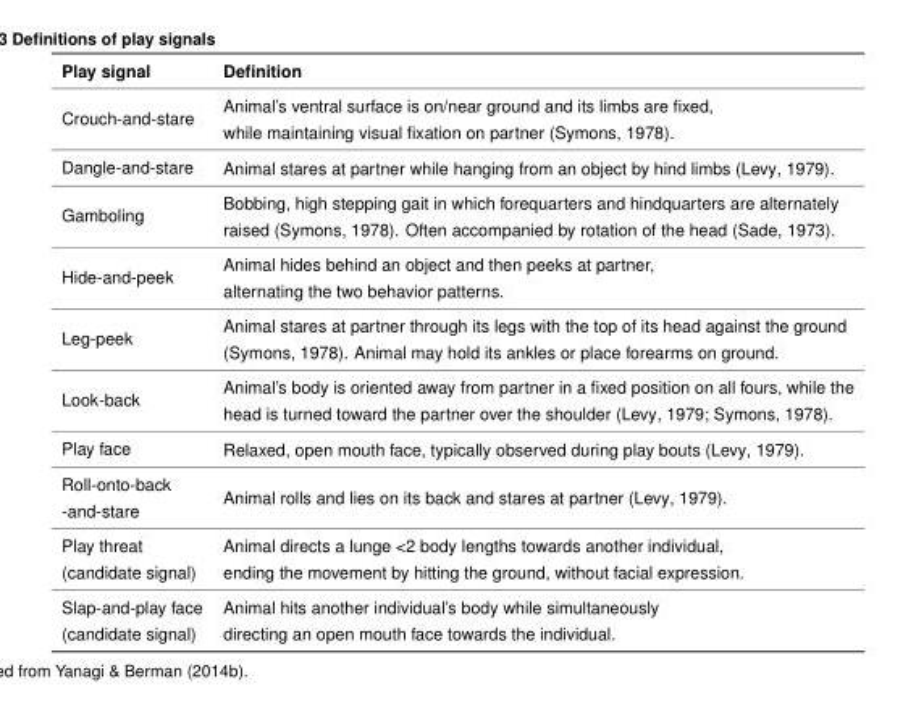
<table><thead><tr><td>Play signal</td><td>Definition</td></tr></thead><tbody><tr><td>Crouch-and-stare</td><td>Animal’s ventral surface is on/near ground and its limbs are fixed, while maintaining visual fixation on partner (Symons, 1978).</td></tr><tr><td>Dangle-and-stare</td><td>Animal stares at partner while hanging from an object by hind limbs (Levy, 1979).</td></tr><tr><td>Gamboling</td><td>Bobbing, high stepping gait in which forequarters and hindquarters are alternately raised (Symons, 1978). Often accompanied by rotation of the head (Sade, 1973).</td></tr><tr><td>Hide-and-peek</td><td>Animal hides behind an object and then peeks at partner, alternating the two behavior patterns.</td></tr><tr><td>Leg-peek</td><td>Animal stares at partner through its legs with the top of its head against the ground (Symons, 1978). Animal may hold its ankles or place forearms on ground.</td></tr><tr><td>Look-back</td><td>Animal’s body is oriented away from partner in a fixed position on all fours, while the head is turned toward the partner over the shoulder (Levy, 1979; Symons, 1978).</td></tr><tr><td>Play face</td><td>Relaxed, open mouth face, typically observed during play bouts (Levy, 1979).</td></tr><tr><td>Roll-onto-back -and-stare</td><td>Animal rolls and lies on its back and stares at partner (Levy, 1979).</td></tr><tr><td>Play threat (candidate signal)</td><td>Animal directs a lunge &lt;2 body lengths towards another individual, ending the movement by hitting the ground, without facial expression.</td></tr><tr><td>Slap-and-play face (candidate signal)</td><td>Animal hits another individual’s body while simultaneously directing an open mouth face towards the individual.</td></tr></tbody></table>